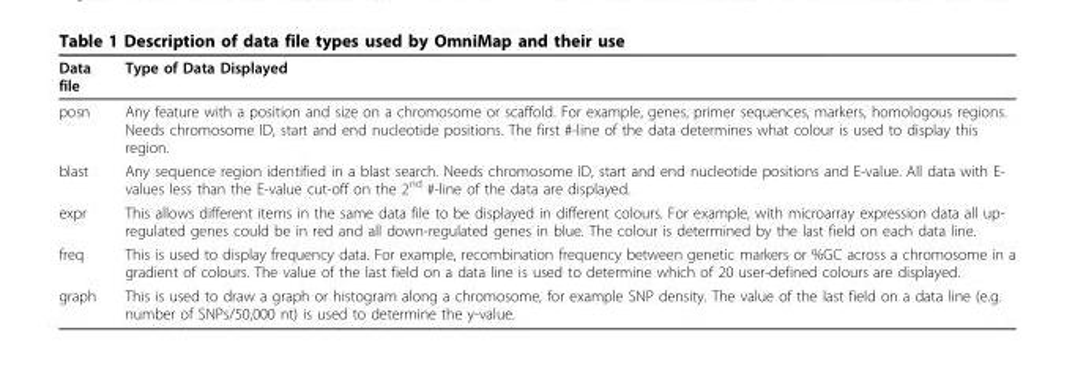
<table><thead><tr><td>Data file</td><td>Type of Data Displayed</td></tr></thead><tbody><tr><td>posn</td><td>Any feature with a position and size on a chromosome or scaffold. For example, genes, primer sequences, markers, homologous regions. Needs chromosome ID, start and end nucleotide positions. The first #-line of the data determines what colour is used to display this region.</td></tr><tr><td>blast</td><td>Any sequence region identified in a blast search. Needs chromosome ID, start and end nucleotide positions and E-value. All data with E- values less than the E-value cut-off on the 2<sup>nd</sup> #-line of the data are displayed.</td></tr><tr><td>expr</td><td>This allows different items in the same data file to be displayed in different colours. For example, with microarray expression data all up- regulated genes could be in red and all down-regulated genes in blue. The colour is determined by the last field on each data line.</td></tr><tr><td>freq</td><td>This is used to display frequency data. For example, recombination frequency between genetic markers or %GC across a chromosome in a gradient of colours. The value of the last field on a data line is used to determine which of 20 user-defined colours are displayed.</td></tr><tr><td>graph</td><td>This is used to draw a graph or histogram along a chromosome, for example SNP density. The value of the last field on a data line (e.g. number of SNPs/50,000 nt) is used to determine the y-value.</td></tr></tbody></table>